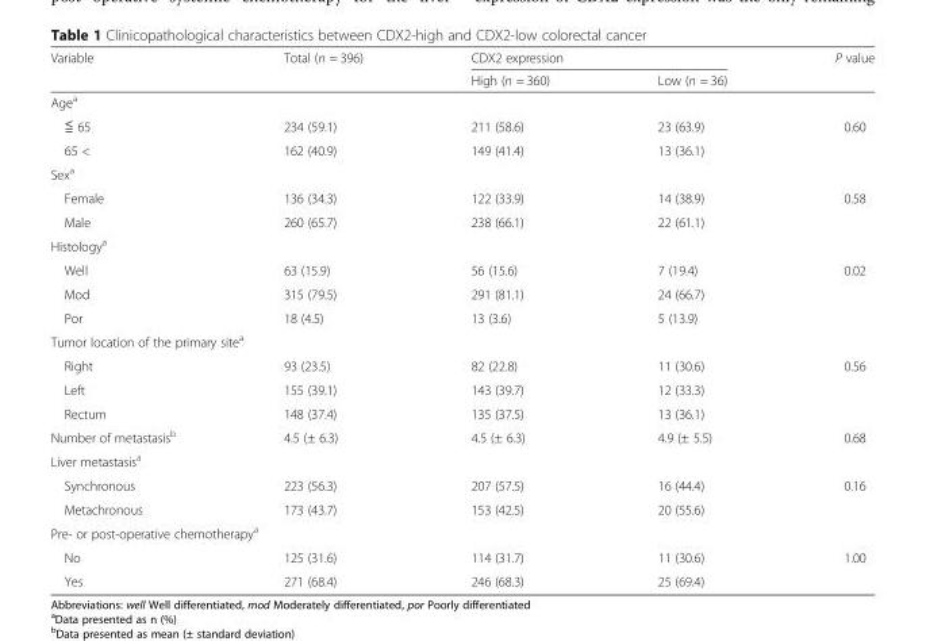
<table><thead><tr><td rowspan="2">Variable</td><td rowspan="2">Total (n = 396)</td><td colspan="2">CDX2 expression</td><td rowspan="2">P value</td></tr><tr><td>High (n = 360)</td><td>Low (n = 36)</td></tr></thead><tbody><tr><td colspan="5">Age<sup>a</sup></td></tr><tr><td>≦ 65</td><td>234 (59.1)</td><td>211 (58.6)</td><td>23 (63.9)</td><td>0.60</td></tr><tr><td>65 &lt;</td><td>162 (40.9)</td><td>149 (41.4)</td><td>13 (36.1)</td><td></td></tr><tr><td colspan="5">Sex<sup>a</sup></td></tr><tr><td>Female</td><td>136 (34.3)</td><td>122 (33.9)</td><td>14 (38.9)</td><td>0.58</td></tr><tr><td>Male</td><td>260 (65.7)</td><td>238 (66.1)</td><td>22 (61.1)</td><td></td></tr><tr><td colspan="5">Histology<sup>a</sup></td></tr><tr><td>Well</td><td>63 (15.9)</td><td>56 (15.6)</td><td>7 (19.4)</td><td>0.02</td></tr><tr><td>Mod</td><td>315 (79.5)</td><td>291 (81.1)</td><td>24 (66.7)</td><td></td></tr><tr><td>Por</td><td>18 (4.5)</td><td>13 (3.6)</td><td>5 (13.9)</td><td></td></tr><tr><td colspan="5">Tumor location of the primary site<sup>a</sup></td></tr><tr><td>Right</td><td>93 (23.5)</td><td>82 (22.8)</td><td>11 (30.6)</td><td>0.56</td></tr><tr><td>Left</td><td>155 (39.1)</td><td>143 (39.7)</td><td>12 (33.3)</td><td></td></tr><tr><td>Rectum</td><td>148 (37.4)</td><td>135 (37.5)</td><td>13 (36.1)</td><td></td></tr><tr><td>Number of metastasis<sup>b</sup></td><td>4.5 (± 6.3)</td><td>4.5 (± 6.3)</td><td>4.9 (± 5.5)</td><td>0.68</td></tr><tr><td colspan="5">Liver metastasis<sup>a</sup></td></tr><tr><td>Synchronous</td><td>223 (56.3)</td><td>207 (57.5)</td><td>16 (44.4)</td><td>0.16</td></tr><tr><td>Metachronous</td><td>173 (43.7)</td><td>153 (42.5)</td><td>20 (55.6)</td><td></td></tr><tr><td colspan="5">Pre- or post-operative chemotherapy<sup>a</sup></td></tr><tr><td>No</td><td>125 (31.6)</td><td>114 (31.7)</td><td>11 (30.6)</td><td>1.00</td></tr><tr><td>Yes</td><td>271 (68.4)</td><td>246 (68.3)</td><td>25 (69.4)</td><td></td></tr></tbody></table>